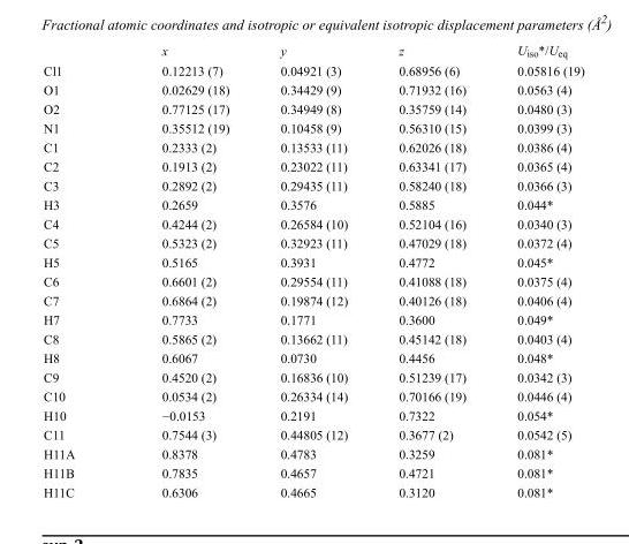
<table><thead><tr><td></td><td>x</td><td>y</td><td>z</td><td>U<sub>iso</sub>*/U<sub>eq</sub></td></tr></thead><tbody><tr><td>Cl1</td><td>0.12213 (7)</td><td>0.04921 (3)</td><td>0.68956 (6)</td><td>0.05816 (19)</td></tr><tr><td>O1</td><td>0.02629 (18)</td><td>0.34429 (9)</td><td>0.71932 (16)</td><td>0.0563 (4)</td></tr><tr><td>O2</td><td>0.77125 (17)</td><td>0.34949 (8)</td><td>0.35759 (14)</td><td>0.0480 (3)</td></tr><tr><td>N1</td><td>0.35512 (19)</td><td>0.10458 (9)</td><td>0.56310 (15)</td><td>0.0399 (3)</td></tr><tr><td>C1</td><td>0.2333 (2)</td><td>0.13533 (11)</td><td>0.62026 (18)</td><td>0.0386 (4)</td></tr><tr><td>C2</td><td>0.1913 (2)</td><td>0.23022 (11)</td><td>0.63341 (17)</td><td>0.0365 (4)</td></tr><tr><td>C3</td><td>0.2892 (2)</td><td>0.29435 (11)</td><td>0.58240 (18)</td><td>0.0366 (3)</td></tr><tr><td>H3</td><td>0.2659</td><td>0.3576</td><td>0.5885</td><td>0.044*</td></tr><tr><td>C4</td><td>0.4244 (2)</td><td>0.26584 (10)</td><td>0.52104 (16)</td><td>0.0340 (3)</td></tr><tr><td>C5</td><td>0.5323 (2)</td><td>0.32923 (11)</td><td>0.47029 (18)</td><td>0.0372 (4)</td></tr><tr><td>H5</td><td>0.5165</td><td>0.3931</td><td>0.4772</td><td>0.045*</td></tr><tr><td>C6</td><td>0.6601 (2)</td><td>0.29554 (11)</td><td>0.41088 (18)</td><td>0.0375 (4)</td></tr><tr><td>C7</td><td>0.6864 (2)</td><td>0.19874 (12)</td><td>0.40126 (18)</td><td>0.0406 (4)</td></tr><tr><td>H7</td><td>0.7733</td><td>0.1771</td><td>0.3600</td><td>0.049*</td></tr><tr><td>C8</td><td>0.5865 (2)</td><td>0.13662 (11)</td><td>0.45142 (18)</td><td>0.0403 (4)</td></tr><tr><td>H8</td><td>0.6067</td><td>0.0730</td><td>0.4456</td><td>0.048*</td></tr><tr><td>C9</td><td>0.4520 (2)</td><td>0.16836 (10)</td><td>0.51239 (17)</td><td>0.0342 (3)</td></tr><tr><td>C10</td><td>0.0534 (2)</td><td>0.26334 (14)</td><td>0.70166 (19)</td><td>0.0446 (4)</td></tr><tr><td>H10</td><td>−0.0153</td><td>0.2191</td><td>0.7322</td><td>0.054*</td></tr><tr><td>C11</td><td>0.7544 (3)</td><td>0.44805 (12)</td><td>0.3677 (2)</td><td>0.0542 (5)</td></tr><tr><td>H11A</td><td>0.8378</td><td>0.4783</td><td>0.3259</td><td>0.081*</td></tr><tr><td>H11B</td><td>0.7835</td><td>0.4657</td><td>0.4721</td><td>0.081*</td></tr><tr><td>H11C</td><td>0.6306</td><td>0.4665</td><td>0.3120</td><td>0.081*</td></tr></tbody></table>